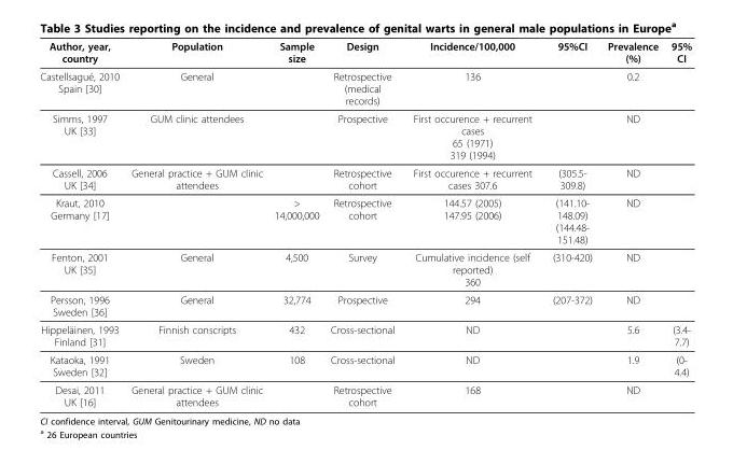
<table><thead><tr><td>Author, year, country</td><td>Population</td><td>Sample size</td><td>Design</td><td>Incidence/100,000</td><td>95%CI</td><td>Prevalence (%)</td><td>95% CI</td></tr></thead><tbody><tr><td>Castellsagué, 2010 Spain [30]</td><td>General</td><td></td><td>Retrospective (medical records)</td><td>136</td><td></td><td>0.2</td><td></td></tr><tr><td>Simms, 1997 UK [33]</td><td>GUM clinic attendees</td><td></td><td>Prospective</td><td>First occurence + recurrent cases 65 (1971) 319 (1994)</td><td></td><td>ND</td><td></td></tr><tr><td>Cassell, 2006 UK [34]</td><td>General practice + GUM clinic attendees</td><td></td><td>Retrospective cohort</td><td>First occurence + recurrent cases 307.6</td><td>(305.5- 309.8)</td><td>ND</td><td></td></tr><tr><td>Kraut, 2010 Germany [17]</td><td></td><td>&gt; 14,000,000</td><td>Retrospective cohort</td><td>144.57 (2005) 147.95 (2006)</td><td>(141.10- 148.09) (144.48- 151.48)</td><td>ND</td><td></td></tr><tr><td>Fenton, 2001 UK [35]</td><td>General</td><td>4,500</td><td>Survey</td><td>Cumulative incidence (self reported) 360</td><td>(310-420)</td><td>ND</td><td></td></tr><tr><td>Persson, 1996 Sweden [36]</td><td>General</td><td>32,774</td><td>Prospective</td><td>294</td><td>(207-372)</td><td>ND</td><td></td></tr><tr><td>Hippeläinen, 1993 Finland [31]</td><td>Finnish conscripts</td><td>432</td><td>Cross-sectional</td><td>ND</td><td></td><td>5.6</td><td>(3.4- 7.7)</td></tr><tr><td>Kataoka, 1991 Sweden [32]</td><td>Sweden</td><td>108</td><td>Cross-sectional</td><td>ND</td><td></td><td>1.9</td><td>(0- 4.4)</td></tr><tr><td>Desai, 2011 UK [16]</td><td>General practice + GUM clinic attendees</td><td></td><td>Retrospective cohort</td><td>168</td><td></td><td>ND</td><td></td></tr></tbody></table>